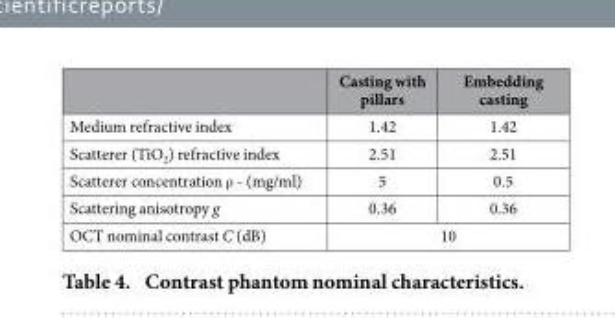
<table><thead><tr><td></td><td>Casting with pillars</td><td>Embedding casting</td></tr></thead><tbody><tr><td>Medium refractive index</td><td>1.42</td><td>1.42</td></tr><tr><td>Scatterer (TiO<sub>2</sub>) refractive index</td><td>2.51</td><td>2.51</td></tr><tr><td>Scatterer concentration ρ - (mg/ml)</td><td>5</td><td>0.5</td></tr><tr><td>Scattering anisotropy g</td><td>0.36</td><td>0.36</td></tr><tr><td>OCT nominal contrast C (dB)</td><td colspan="2">10</td></tr></tbody></table>